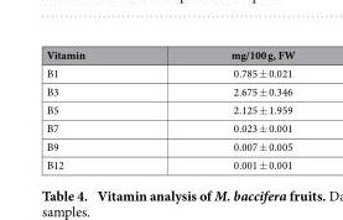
<table><thead><tr><td>Vitamin</td><td>mg/100 g, FW</td></tr></thead><tbody><tr><td>B1</td><td>0.785 ± 0.021</td></tr><tr><td>B3</td><td>2.675 ± 0.346</td></tr><tr><td>B5</td><td>2.125 ± 1.959</td></tr><tr><td>B7</td><td>0.023 ± 0.001</td></tr><tr><td>B9</td><td>0.007 ± 0.005</td></tr><tr><td>B12</td><td>0.001 ± 0.001</td></tr></tbody></table>